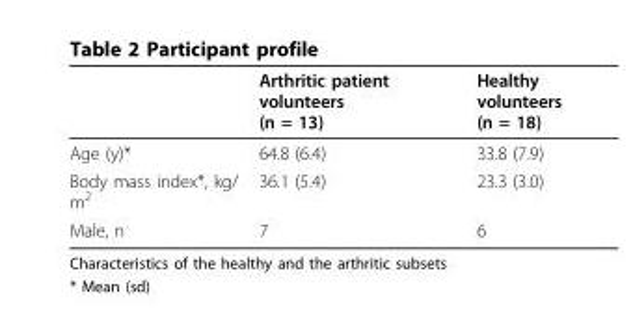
<table><thead><tr><td></td><td>Arthritic patient volunteers (n = 13)</td><td>Healthy volunteers (n = 18)</td></tr></thead><tbody><tr><td>Age (y)*</td><td>64.8 (6.4)</td><td>33.8 (7.9)</td></tr><tr><td>Body mass index*, kg/ m<sup>2</sup></td><td>36.1 (5.4)</td><td>23.3 (3.0)</td></tr><tr><td>Male, n</td><td>7</td><td>6</td></tr></tbody></table>